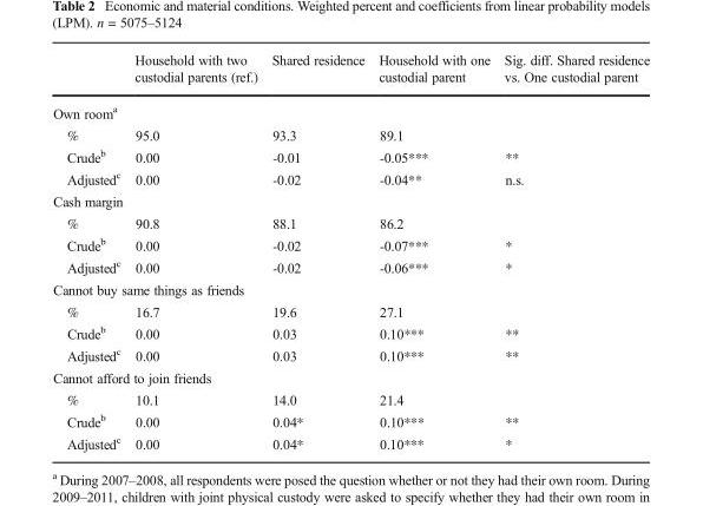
<table><thead><tr><td></td><td>Household with two custodial parents (ref.)</td><td>Shared residence</td><td>Household with one custodial parent</td><td>Sig. diff. Shared residence vs. One custodial parent</td></tr></thead><tbody><tr><td colspan="5">Own room<sup>a</sup></td></tr><tr><td>%</td><td>95.0</td><td>93.3</td><td>89.1</td><td></td></tr><tr><td>Crude<sup>b</sup></td><td>0.00</td><td>-0.01</td><td>-0.05***</td><td>**</td></tr><tr><td>Adjusted<sup>c</sup></td><td>0.00</td><td>-0.02</td><td>-0.04**</td><td>n.s.</td></tr><tr><td colspan="5">Cash margin</td></tr><tr><td>%</td><td>90.8</td><td>88.1</td><td>86.2</td><td></td></tr><tr><td>Crude<sup>b</sup></td><td>0.00</td><td>-0.02</td><td>-0.07***</td><td>*</td></tr><tr><td>Adjusted<sup>c</sup></td><td>0.00</td><td>-0.02</td><td>-0.06***</td><td>*</td></tr><tr><td colspan="5">Cannot buy same things as friends</td></tr><tr><td>%</td><td>16.7</td><td>19.6</td><td>27.1</td><td></td></tr><tr><td>Crude<sup>b</sup></td><td>0.00</td><td>0.03</td><td>0.10***</td><td>**</td></tr><tr><td>Adjusted<sup>c</sup></td><td>0.00</td><td>0.03</td><td>0.10***</td><td>**</td></tr><tr><td colspan="5">Cannot afford to join friends</td></tr><tr><td>%</td><td>10.1</td><td>14.0</td><td>21.4</td><td></td></tr><tr><td>Crude<sup>b</sup></td><td>0.00</td><td>0.04*</td><td>0.10***</td><td>**</td></tr><tr><td>Adjusted<sup>c</sup></td><td>0.00</td><td>0.04*</td><td>0.10***</td><td>*</td></tr></tbody></table>